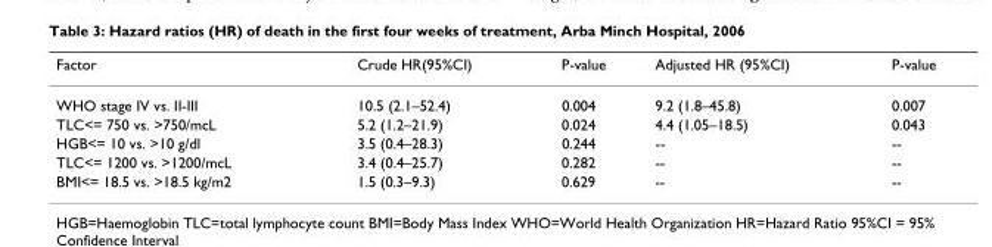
<table><thead><tr><td>Factor</td><td>Crude HR(95%CI)</td><td>P-value</td><td>Adjusted HR (95%CI)</td><td>P-value</td></tr></thead><tbody><tr><td>WHO stage IV vs. II-III</td><td>10.5 (2.1–52.4)</td><td>0.004</td><td>9.2 (1.8–45.8)</td><td>0.007</td></tr><tr><td>TLC&lt;= 750 vs. &gt;750/mcL</td><td>5.2 (1.2–21.9)</td><td>0.024</td><td>4.4 (1.05–18.5)</td><td>0.043</td></tr><tr><td>HGB&lt;= 10 vs. &gt;10 g/dl</td><td>3.5 (0.4–28.3)</td><td>0.244</td><td>--</td><td>--</td></tr><tr><td>TLC&lt;= 1200 vs. &gt;1200/mcL</td><td>3.4 (0.4–25.7)</td><td>0.282</td><td>--</td><td>--</td></tr><tr><td>BMI&lt;= 18.5 vs. &gt;18.5 kg/m2</td><td>1.5 (0.3–9.3)</td><td>0.629</td><td>--</td><td>--</td></tr></tbody></table>